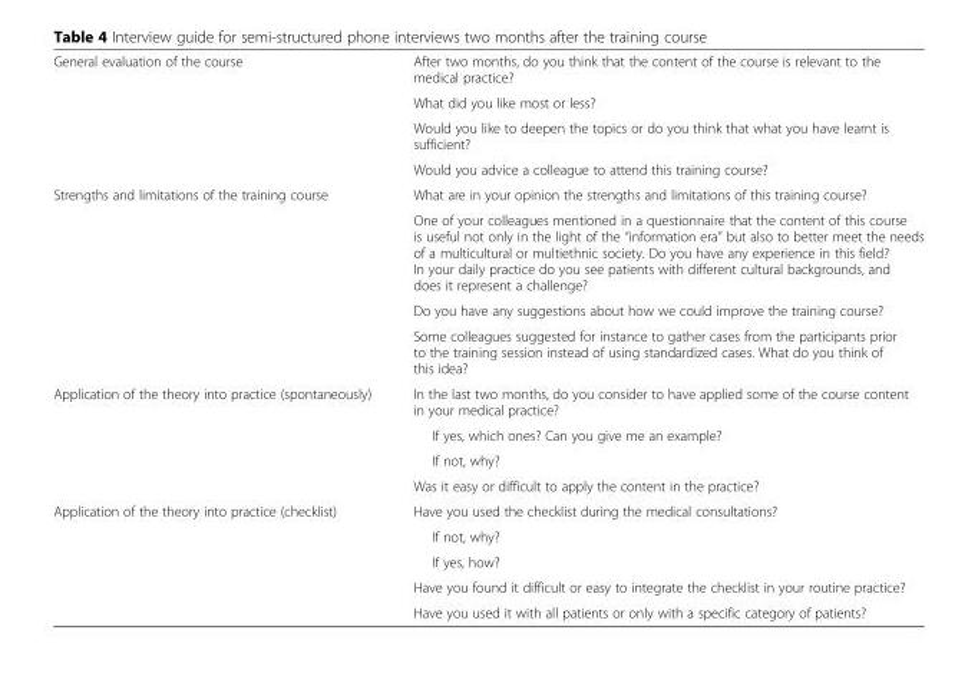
<table><tbody><tr><td rowspan="4">General evaluation of the course</td><td>After two months, do you think that the content of the course is relevant to the medical practice?</td></tr><tr><td>What did you like most or less?</td></tr><tr><td>Would you like to deepen the topics or do you think that what you have learnt is sufficient?</td></tr><tr><td>Would you advice a colleague to attend this training course?</td></tr><tr><td rowspan="4">Strengths and limitations of the training course</td><td>What are in your opinion the strengths and limitations of this training course?</td></tr><tr><td>One of your colleagues mentioned in a questionnaire that the content of this course is useful not only in the light of the “information era” but also to better meet the needs of a multicultural or multiethnic society. Do you have any experience in this field? In your daily practice do you see patients with different cultural backgrounds, and does it represent a challenge?</td></tr><tr><td>Do you have any suggestions about how we could improve the training course?</td></tr><tr><td>Some colleagues suggested for instance to gather cases from the participants prior to the training session instead of using standardized cases. What do you think of this idea?</td></tr><tr><td rowspan="4">Application of the theory into practice (spontaneously)</td><td>In the last two months, do you consider to have applied some of the course content in your medical practice?</td></tr><tr><td>If yes, which ones? Can you give me an example?</td></tr><tr><td>If not, why?</td></tr><tr><td>Was it easy or difficult to apply the content in the practice?</td></tr><tr><td rowspan="5">Application of the theory into practice (checklist)</td><td>Have you used the checklist during the medical consultations?</td></tr><tr><td>If not, why?</td></tr><tr><td>If yes, how?</td></tr><tr><td>Have you found it difficult or easy to integrate the checklist in your routine practice?</td></tr><tr><td>Have you used it with all patients or only with a specific category of patients?</td></tr></tbody></table>